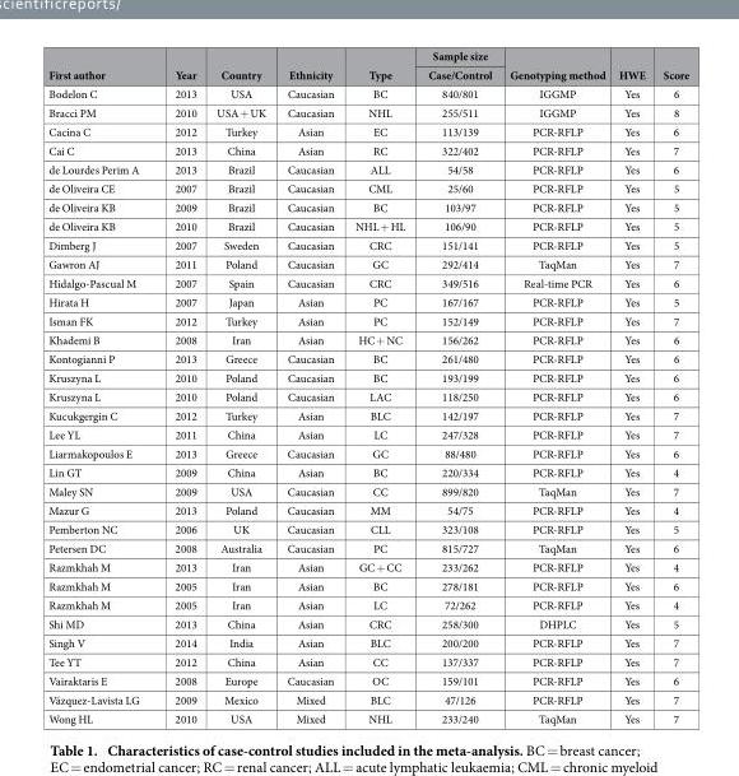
<table><thead><tr><td rowspan="2">First author</td><td rowspan="2">Year</td><td rowspan="2">Country</td><td rowspan="2">Ethnicity</td><td rowspan="2">Type</td><td rowspan="2">Sample size Case/Control</td><td rowspan="2">Genotyping method</td><td rowspan="2">HWE</td><td rowspan="2">Score</td></tr><tr></tr></thead><tbody><tr><td>Bodelon C</td><td>2013</td><td>USA</td><td>Caucasian</td><td>BC</td><td>840/801</td><td>IGGMP</td><td>Yes</td><td>6</td></tr><tr><td>Bracci PM</td><td>2010</td><td>USA + UK</td><td>Caucasian</td><td>NHL</td><td>255/511</td><td>IGGMP</td><td>Yes</td><td>8</td></tr><tr><td>Cacina C</td><td>2012</td><td>Turkey</td><td>Asian</td><td>EC</td><td>113/139</td><td>PCR-RFLP</td><td>Yes</td><td>6</td></tr><tr><td>Cai C</td><td>2013</td><td>China</td><td>Asian</td><td>RC</td><td>322/402</td><td>PCR-RFLP</td><td>Yes</td><td>7</td></tr><tr><td>de Lourdes Perim A</td><td>2013</td><td>Brazil</td><td>Caucasian</td><td>ALL</td><td>54/58</td><td>PCR-RFLP</td><td>Yes</td><td>6</td></tr><tr><td>de Oliveira CE</td><td>2007</td><td>Brazil</td><td>Caucasian</td><td>CML</td><td>25/60</td><td>PCR-RFLP</td><td>Yes</td><td>5</td></tr><tr><td>de Oliveira KB</td><td>2009</td><td>Brazil</td><td>Caucasian</td><td>BC</td><td>103/97</td><td>PCR-RFLP</td><td>Yes</td><td>5</td></tr><tr><td>de Oliveira KB</td><td>2010</td><td>Brazil</td><td>Caucasian</td><td>NHL + HL</td><td>106/90</td><td>PCR-RFLP</td><td>Yes</td><td>5</td></tr><tr><td>Dimberg J</td><td>2007</td><td>Sweden</td><td>Caucasian</td><td>CRC</td><td>151/141</td><td>PCR-RFLP</td><td>Yes</td><td>5</td></tr><tr><td>Gawron AJ</td><td>2011</td><td>Poland</td><td>Caucasian</td><td>GC</td><td>292/414</td><td>TaqMan</td><td>Yes</td><td>7</td></tr><tr><td>Hidalgo-Pascual M</td><td>2007</td><td>Spain</td><td>Caucasian</td><td>CRC</td><td>349/516</td><td>Real-time PCR</td><td>Yes</td><td>6</td></tr><tr><td>Hirata H</td><td>2007</td><td>Japan</td><td>Asian</td><td>PC</td><td>167/167</td><td>PCR-RFLP</td><td>Yes</td><td>5</td></tr><tr><td>Isman FK</td><td>2012</td><td>Turkey</td><td>Asian</td><td>PC</td><td>152/149</td><td>PCR-RFLP</td><td>Yes</td><td>7</td></tr><tr><td>Khademi B</td><td>2008</td><td>Iran</td><td>Asian</td><td>HC + NC</td><td>156/262</td><td>PCR-RFLP</td><td>Yes</td><td>6</td></tr><tr><td>Kontogianni P</td><td>2013</td><td>Greece</td><td>Caucasian</td><td>BC</td><td>261/480</td><td>PCR-RFLP</td><td>Yes</td><td>6</td></tr><tr><td>Kruszyna L</td><td>2010</td><td>Poland</td><td>Caucasian</td><td>BC</td><td>193/199</td><td>PCR-RFLP</td><td>Yes</td><td>6</td></tr><tr><td>Kruszyna L</td><td>2010</td><td>Poland</td><td>Caucasian</td><td>LAC</td><td>118/250</td><td>PCR-RFLP</td><td>Yes</td><td>6</td></tr><tr><td>Kucukgergin C</td><td>2012</td><td>Turkey</td><td>Asian</td><td>BLC</td><td>142/197</td><td>PCR-RFLP</td><td>Yes</td><td>7</td></tr><tr><td>Lee YL</td><td>2011</td><td>China</td><td>Asian</td><td>LC</td><td>247/328</td><td>PCR-RFLP</td><td>Yes</td><td>7</td></tr><tr><td>Liarmakopoulos E</td><td>2013</td><td>Greece</td><td>Caucasian</td><td>GC</td><td>88/480</td><td>PCR-RFLP</td><td>Yes</td><td>6</td></tr><tr><td>Lin GT</td><td>2009</td><td>China</td><td>Asian</td><td>BC</td><td>220/334</td><td>PCR-RFLP</td><td>Yes</td><td>4</td></tr><tr><td>Maley SN</td><td>2009</td><td>USA</td><td>Caucasian</td><td>CC</td><td>899/820</td><td>TaqMan</td><td>Yes</td><td>7</td></tr><tr><td>Mazur G</td><td>2013</td><td>Poland</td><td>Caucasian</td><td>MM</td><td>54/75</td><td>PCR-RFLP</td><td>Yes</td><td>4</td></tr><tr><td>Pemberton NC</td><td>2006</td><td>UK</td><td>Caucasian</td><td>CLL</td><td>323/108</td><td>PCR-RFLP</td><td>Yes</td><td>5</td></tr><tr><td>Petersen DC</td><td>2008</td><td>Australia</td><td>Caucasian</td><td>PC</td><td>815/727</td><td>TaqMan</td><td>Yes</td><td>6</td></tr><tr><td>Razmkhah M</td><td>2013</td><td>Iran</td><td>Asian</td><td>GC + CC</td><td>233/262</td><td>PCR-RFLP</td><td>Yes</td><td>4</td></tr><tr><td>Razmkhah M</td><td>2005</td><td>Iran</td><td>Asian</td><td>BC</td><td>278/181</td><td>PCR-RFLP</td><td>Yes</td><td>6</td></tr><tr><td>Razmkhah M</td><td>2005</td><td>Iran</td><td>Asian</td><td>LC</td><td>72/262</td><td>PCR-RFLP</td><td>Yes</td><td>4</td></tr><tr><td>Shi MD</td><td>2013</td><td>China</td><td>Asian</td><td>CRC</td><td>258/300</td><td>DHPLC</td><td>Yes</td><td>5</td></tr><tr><td>Singh V</td><td>2014</td><td>India</td><td>Asian</td><td>BLC</td><td>200/200</td><td>PCR-RFLP</td><td>Yes</td><td>7</td></tr><tr><td>Tee YT</td><td>2012</td><td>China</td><td>Asian</td><td>CC</td><td>137/337</td><td>PCR-RFLP</td><td>Yes</td><td>7</td></tr><tr><td>Vairaktaris E</td><td>2008</td><td>Europe</td><td>Caucasian</td><td>OC</td><td>159/101</td><td>PCR-RFLP</td><td>Yes</td><td>6</td></tr><tr><td>Vázquez-Lavista LG</td><td>2009</td><td>Mexico</td><td>Mixed</td><td>BLC</td><td>47/126</td><td>PCR-RFLP</td><td>Yes</td><td>7</td></tr><tr><td>Wong HL</td><td>2010</td><td>USA</td><td>Mixed</td><td>NHL</td><td>233/240</td><td>TaqMan</td><td>Yes</td><td>7</td></tr></tbody></table>